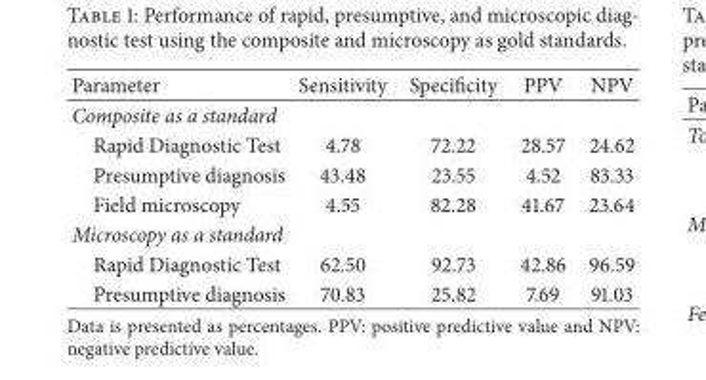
<table><thead><tr><td>Parameter</td><td>Sensitivity</td><td>Specificity</td><td>PPV</td><td>NPV</td></tr></thead><tbody><tr><td colspan="5">Composite as a standard</td></tr><tr><td>Rapid Diagnostic Test</td><td>4.78</td><td>72.22</td><td>28.57</td><td>24.62</td></tr><tr><td>Presumptive diagnosis</td><td>43.48</td><td>23.55</td><td>4.52</td><td>83.33</td></tr><tr><td>Field microscopy</td><td>4.55</td><td>82.28</td><td>41.67</td><td>23.64</td></tr><tr><td colspan="5">Microscopy as a standard</td></tr><tr><td>Rapid Diagnostic Test</td><td>62.50</td><td>92.73</td><td>42.86</td><td>96.59</td></tr><tr><td>Presumptive diagnosis</td><td>70.83</td><td>25.82</td><td>7.69</td><td>91.03</td></tr></tbody></table>